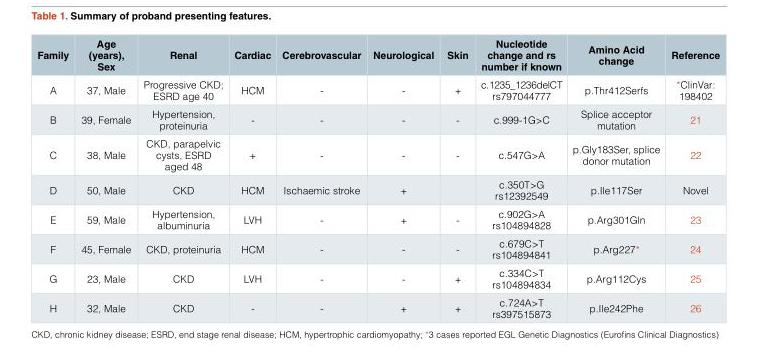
<table><thead><tr><td>Family</td><td>Age (years), Sex</td><td>Renal</td><td>Cardiac</td><td>Cerebrovascular</td><td>Neurological</td><td>Skin</td><td>Nucleotide change and rs number if known</td><td>Amino Acid change</td><td>Reference</td></tr></thead><tbody><tr><td>A</td><td>37, Male</td><td>Progressive CKD; ESRD age 40</td><td>HCM</td><td>-</td><td>-</td><td>+</td><td>c.1235_1236delCT rs797044777</td><td>p.Thr412Serfs</td><td>*ClinVar: 198402</td></tr><tr><td>B</td><td>39, Female</td><td>Hypertension, proteinuria</td><td>-</td><td>-</td><td>-</td><td>-</td><td>c.999-1G&gt;C</td><td>Splice acceptor mutation</td><td>21</td></tr><tr><td>C</td><td>38, Male</td><td>CKD, parapelvic cysts, ESRD aged 48</td><td>+</td><td>-</td><td>-</td><td>-</td><td>c.547G&gt;A</td><td>p.Gly183Ser, splice donor mutation</td><td>22</td></tr><tr><td>D</td><td>50, Male</td><td>CKD</td><td>HCM</td><td>Ischaemic stroke</td><td>+</td><td></td><td>c.350T&gt;G rs12392549</td><td>p.Ile117Ser</td><td>Novel</td></tr><tr><td>E</td><td>59, Male</td><td>Hypertension, albuminuria</td><td>LVH</td><td>-</td><td>+</td><td>-</td><td>c.902G&gt;A rs104894828</td><td>p.Arg301Gln</td><td>23</td></tr><tr><td>F</td><td>45, Female</td><td>CKD, proteinuria</td><td>HCM</td><td>-</td><td>-</td><td>-</td><td>c.679C&gt;T rs104894841</td><td>p.Arg227*</td><td>24</td></tr><tr><td>G</td><td>23, Male</td><td>CKD</td><td>LVH</td><td>-</td><td>-</td><td>+</td><td>c.334C&gt;T rs104894834</td><td>p.Arg112Cys</td><td>25</td></tr><tr><td>H</td><td>32, Male</td><td>CKD</td><td>-</td><td>-</td><td>+</td><td>+</td><td>c.724A&gt;T rs397515873</td><td>p.Ile242Phe</td><td>26</td></tr></tbody></table>